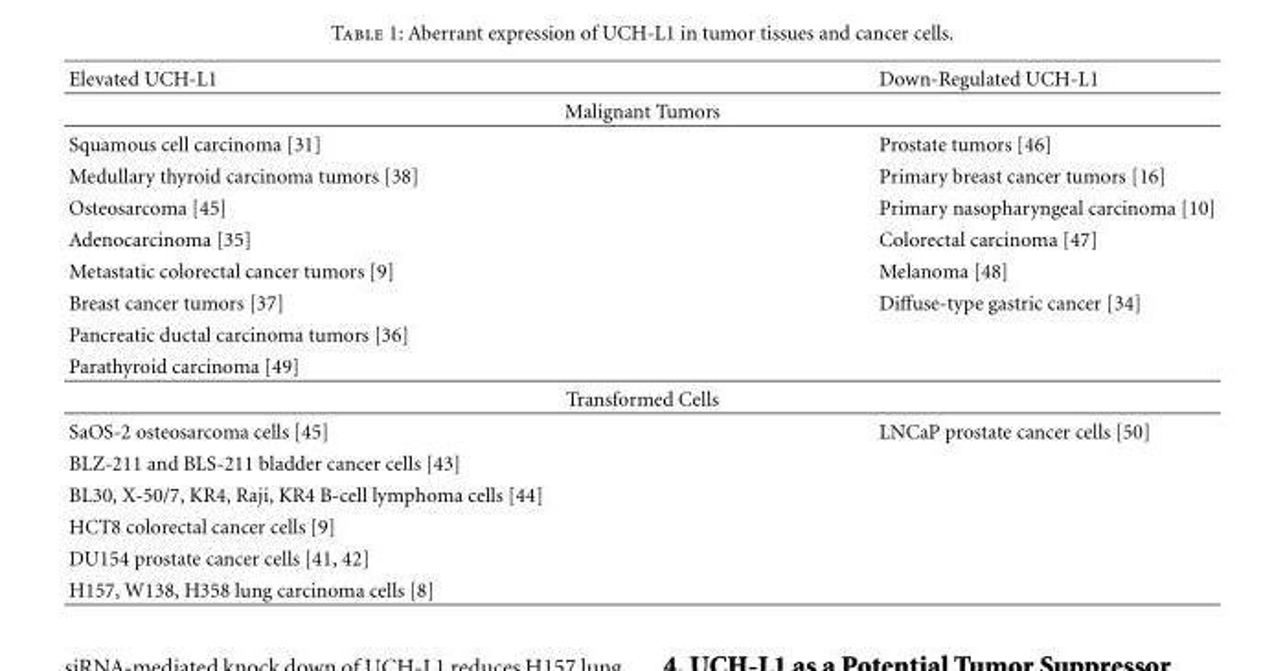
<table><thead><tr><td>Elevated UCH-L1</td><td>Down-Regulated UCH-L1</td></tr></thead><tbody><tr><td colspan="2">Malignant Tumors</td></tr><tr><td>Squamous cell carcinoma [31]</td><td>Prostate tumors [46]</td></tr><tr><td>Medullary thyroid carcinoma tumors [38]</td><td>Primary breast cancer tumors [16]</td></tr><tr><td>Osteosarcoma [45]</td><td>Primary nasopharyngeal carcinoma [10]</td></tr><tr><td>Adenocarcinoma [35]</td><td>Colorectal carcinoma [47]</td></tr><tr><td>Metastatic colorectal cancer tumors [9]</td><td>Melanoma [48]</td></tr><tr><td>Breast cancer tumors [37]</td><td>Diffuse-type gastric cancer [34]</td></tr><tr><td colspan="2">Pancreatic ductal carcinoma tumors [36]</td></tr><tr><td colspan="2">Parathyroid carcinoma [49]</td></tr><tr><td colspan="2">Transformed Cells</td></tr><tr><td>SaOS-2 osteosarcoma cells [45]</td><td>LNCaP prostate cancer cells [50]</td></tr><tr><td colspan="2">BLZ-211 and BLS-211 bladder cancer cells [43]</td></tr><tr><td colspan="2">BL30, X-50/7, KR4, Raji, KR4 B-cell lymphoma cells [44]</td></tr><tr><td colspan="2">HCT8 colorectal cancer cells [9]</td></tr><tr><td colspan="2">DU154 prostate cancer cells [41, 42]</td></tr><tr><td>H157, W138, H358 lung carcinoma cells [8]</td><td></td></tr></tbody></table>